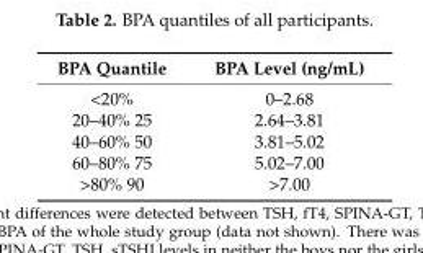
<table><thead><tr><td>BPA Quantile</td><td>BPA Level (ng/mL)</td></tr></thead><tbody><tr><td>&lt;20%</td><td>0–2.68</td></tr><tr><td>20–40% 25</td><td>2.64–3.81</td></tr><tr><td>40–60% 50</td><td>3.81–5.02</td></tr><tr><td>60–80% 75</td><td>5.02–7.00</td></tr><tr><td>&gt;80% 90</td><td>&gt;7.00</td></tr></tbody></table>